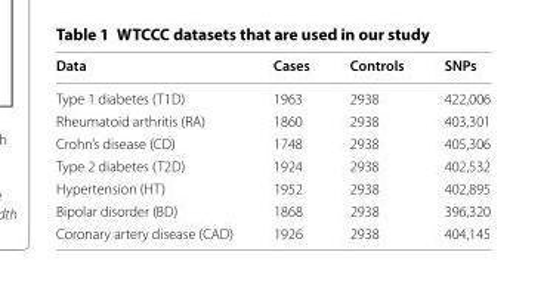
<table><thead><tr><td>Data</td><td>Cases</td><td>Controls</td><td>SNPs</td></tr></thead><tbody><tr><td>Type 1 diabetes (T1D)</td><td>1963</td><td>2938</td><td>422,006</td></tr><tr><td>Rheumatoid arthritis (RA)</td><td>1860</td><td>2938</td><td>403,301</td></tr><tr><td>Crohn’s disease (CD)</td><td>1748</td><td>2938</td><td>405,306</td></tr><tr><td>Type 2 diabetes (T2D)</td><td>1924</td><td>2938</td><td>402,532</td></tr><tr><td>Hypertension (HT)</td><td>1952</td><td>2938</td><td>402,895</td></tr><tr><td>Bipolar disorder (BD)</td><td>1868</td><td>2938</td><td>396,320</td></tr><tr><td>Coronary artery disease (CAD)</td><td>1926</td><td>2938</td><td>404,145</td></tr></tbody></table>